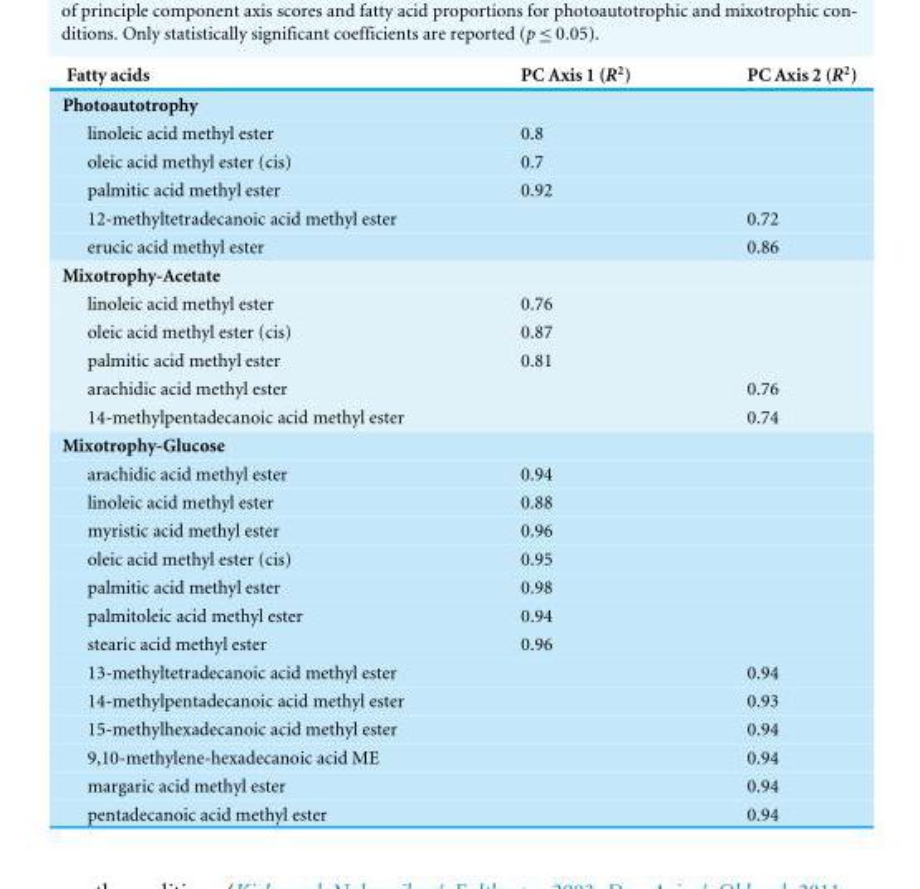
<table><thead><tr><td>Fatty acids</td><td>PC Axis 1 (R<sup>2</sup>)</td><td>PC Axis 2 (R<sup>2</sup>)</td></tr></thead><tbody><tr><td colspan="3">Photoautotrophy</td></tr><tr><td>linoleic acid methyl ester</td><td>0.8</td><td></td></tr><tr><td>oleic acid methyl ester (cis)</td><td>0.7</td><td></td></tr><tr><td>palmitic acid methyl ester</td><td>0.92</td><td></td></tr><tr><td>12-methyltetradecanoic acid methyl ester</td><td></td><td>0.72</td></tr><tr><td>erucic acid methyl ester</td><td></td><td>0.86</td></tr><tr><td colspan="3">Mixotrophy-Acetate</td></tr><tr><td>linoleic acid methyl ester</td><td>0.76</td><td></td></tr><tr><td>oleic acid methyl ester (cis)</td><td>0.87</td><td></td></tr><tr><td>palmitic acid methyl ester</td><td>0.81</td><td></td></tr><tr><td>arachidic acid methyl ester</td><td></td><td>0.76</td></tr><tr><td>14-methylpentadecanoic acid methyl ester</td><td></td><td>0.74</td></tr><tr><td colspan="3">Mixotrophy-Glucose</td></tr><tr><td>arachidic acid methyl ester</td><td>0.94</td><td></td></tr><tr><td>linoleic acid methyl ester</td><td>0.88</td><td></td></tr><tr><td>myristic acid methyl ester</td><td>0.96</td><td></td></tr><tr><td>oleic acid methyl ester (cis)</td><td>0.95</td><td></td></tr><tr><td>palmitic acid methyl ester</td><td>0.98</td><td></td></tr><tr><td>palmitoleic acid methyl ester</td><td>0.94</td><td></td></tr><tr><td>stearic acid methyl ester</td><td>0.96</td><td></td></tr><tr><td>13-methyltetradecanoic acid methyl ester</td><td></td><td>0.94</td></tr><tr><td>14-methylpentadecanoic acid methyl ester</td><td></td><td>0.93</td></tr><tr><td>15-methylhexadecanoic acid methyl ester</td><td></td><td>0.94</td></tr><tr><td>9,10-methylene-hexadecanoic acid ME</td><td></td><td>0.94</td></tr><tr><td>margaric acid methyl ester</td><td></td><td>0.94</td></tr><tr><td>pentadecanoic acid methyl ester</td><td></td><td>0.94</td></tr></tbody></table>